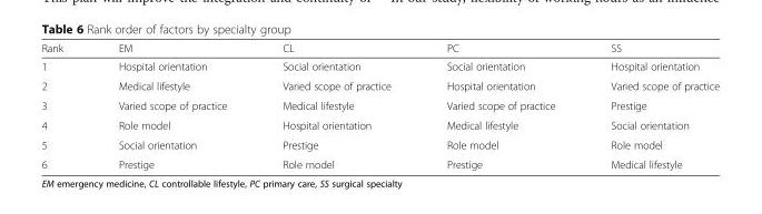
<table><thead><tr><td>Rank</td><td>EM</td><td>CL</td><td>PC</td><td>SS</td></tr></thead><tbody><tr><td>1</td><td>Hospital orientation</td><td>Social orientation</td><td>Social orientation</td><td>Hospital orientation</td></tr><tr><td>2</td><td>Medical lifestyle</td><td>Varied scope of practice</td><td>Hospital orientation</td><td>Varied scope of practice</td></tr><tr><td>3</td><td>Varied scope of practice</td><td>Medical lifestyle</td><td>Varied scope of practice</td><td>Prestige</td></tr><tr><td>4</td><td>Role model</td><td>Hospital orientation</td><td>Medical lifestyle</td><td>Social orientation</td></tr><tr><td>5</td><td>Social orientation</td><td>Prestige</td><td>Role model</td><td>Role model</td></tr><tr><td>6</td><td>Prestige</td><td>Role model</td><td>Prestige</td><td>Medical lifestyle</td></tr></tbody></table>